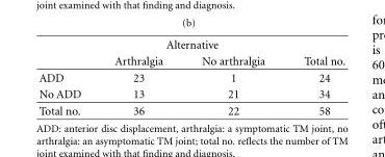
<table><thead><tr><td colspan="4">Alternative</td></tr><tr><td></td><td>Arthralgia</td><td>No arthralgia</td><td>Total no.</td></tr></thead><tbody><tr><td>ADD</td><td>23</td><td>1</td><td>24</td></tr><tr><td>No ADD</td><td>13</td><td>21</td><td>34</td></tr><tr><td>Total no.</td><td>36</td><td>22</td><td>58</td></tr></tbody></table>